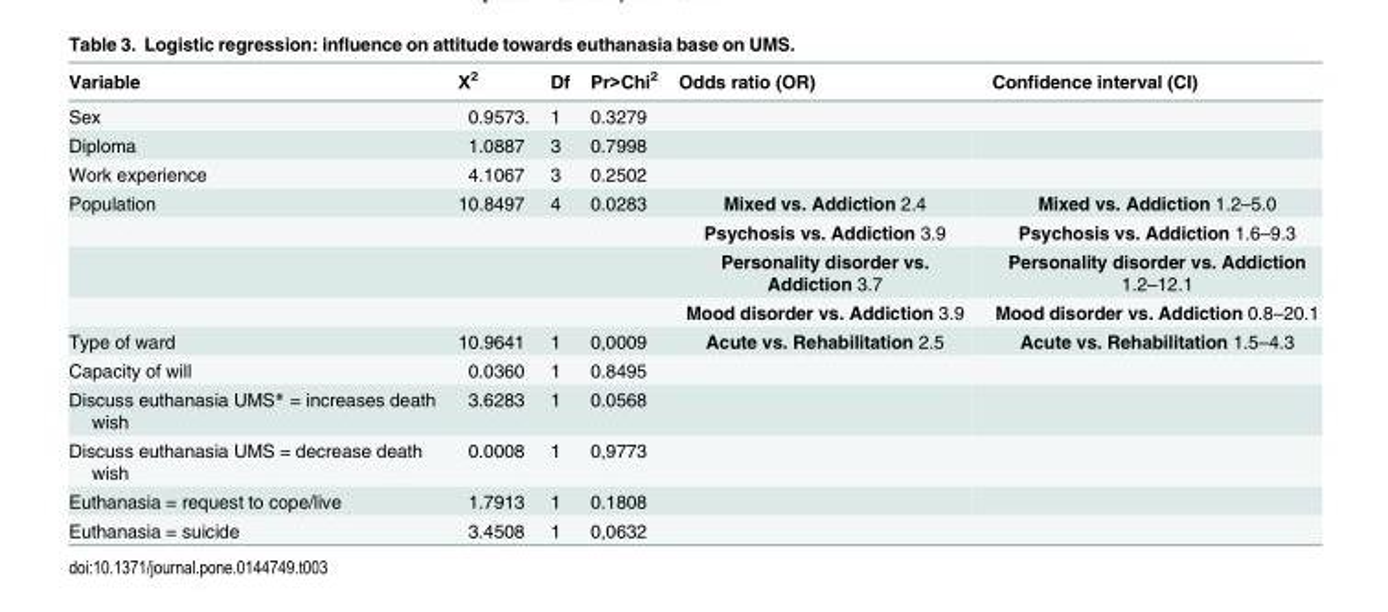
<table><thead><tr><td>Variable</td><td>Χ<sup>2</sup></td><td>Df</td><td>Pr&gt;Chi<sup>2</sup></td><td>Odds ratio (OR)</td><td>Confidence interval (CI)</td></tr></thead><tbody><tr><td>Sex</td><td>0.9573.</td><td>1</td><td>0.3279</td><td></td><td></td></tr><tr><td>Diploma</td><td>1.0887</td><td>3</td><td>0.7998</td><td></td><td></td></tr><tr><td>Work experience</td><td>4.1067</td><td>3</td><td>0.2502</td><td></td><td></td></tr><tr><td rowspan="4">Population</td><td>10.8497</td><td>4</td><td>0.0283</td><td>Mixed vs. Addiction 2.4</td><td>Mixed vs. Addiction 1.2–5.0</td></tr><tr><td></td><td></td><td></td><td>Psychosis vs. Addiction 3.9</td><td>Psychosis vs. Addiction 1.6–9.3</td></tr><tr><td></td><td></td><td></td><td>Personality disorder vs. Addiction 3.7</td><td>Personality disorder vs. Addiction 1.2–12.1</td></tr><tr><td></td><td></td><td></td><td>Mood disorder vs. Addiction 3.9</td><td>Mood disorder vs. Addiction 0.8–20.1</td></tr><tr><td>Type of ward</td><td>10.9641</td><td>1</td><td>0,0009</td><td>Acute vs. Rehabilitation 2.5</td><td>Acute vs. Rehabilitation 1.5–4.3</td></tr><tr><td>Capacity of will</td><td>0.0360</td><td>1</td><td>0.8495</td><td></td><td></td></tr><tr><td>Discuss euthanasia UMS* = increases death wish</td><td>3.6283</td><td>1</td><td>0.0568</td><td></td><td></td></tr><tr><td>Discuss euthanasia UMS = decrease death wish</td><td>0.0008</td><td>1</td><td>0,9773</td><td></td><td></td></tr><tr><td>Euthanasia = request to cope/live</td><td>1.7913</td><td>1</td><td>0.1808</td><td></td><td></td></tr><tr><td>Euthanasia = suicide</td><td>3.4508</td><td>1</td><td>0,0632</td><td></td><td></td></tr></tbody></table>